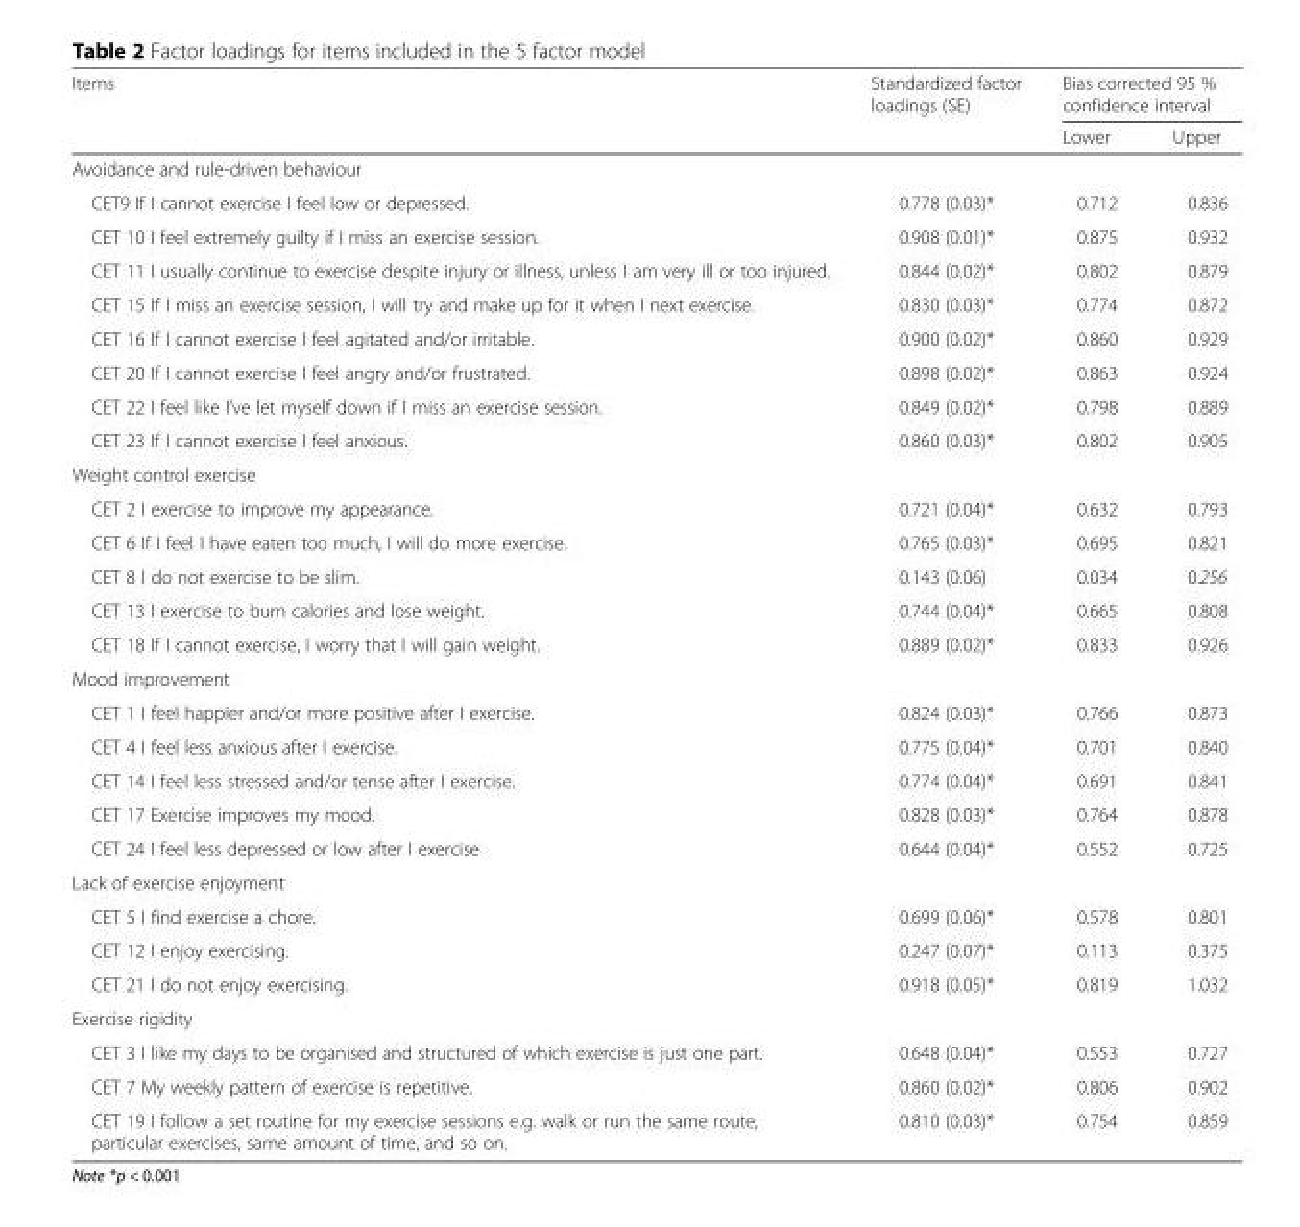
<table><thead><tr><td rowspan="2">Items</td><td rowspan="2">Standardized factor loadings (SE)</td><td colspan="2">Bias corrected 95 % confidence interval</td></tr><tr><td>Lower</td><td>Upper</td></tr></thead><tbody><tr><td colspan="4">Avoidance and rule-driven behaviour</td></tr><tr><td>CET9 If I cannot exercise I feel low or depressed.</td><td>0.778 (0.03)*</td><td>0.712</td><td>0.836</td></tr><tr><td>CET 10 I feel extremely guilty if I miss an exercise session.</td><td>0.908 (0.01)*</td><td>0.875</td><td>0.932</td></tr><tr><td>CET 11 I usually continue to exercise despite injury or illness, unless I am very ill or too injured.</td><td>0.844 (0.02)*</td><td>0.802</td><td>0.879</td></tr><tr><td>CET 15 If I miss an exercise session, I will try and make up for it when I next exercise.</td><td>0.830 (0.03)*</td><td>0.774</td><td>0.872</td></tr><tr><td>CET 16 If I cannot exercise I feel agitated and/or irritable.</td><td>0.900 (0.02)*</td><td>0.860</td><td>0.929</td></tr><tr><td>CET 20 If I cannot exercise I feel angry and/or frustrated.</td><td>0.898 (0.02)*</td><td>0.863</td><td>0.924</td></tr><tr><td>CET 22 I feel like I’ve let myself down if I miss an exercise session.</td><td>0.849 (0.02)*</td><td>0.798</td><td>0.889</td></tr><tr><td>CET 23 If I cannot exercise I feel anxious.</td><td>0.860 (0.03)*</td><td>0.802</td><td>0.905</td></tr><tr><td colspan="4">Weight control exercise</td></tr><tr><td>CET 2 I exercise to improve my appearance.</td><td>0.721 (0.04)*</td><td>0.632</td><td>0.793</td></tr><tr><td>CET 6 If I feel I have eaten too much, I will do more exercise.</td><td>0.765 (0.03)*</td><td>0.695</td><td>0.821</td></tr><tr><td>CET 8 I do not exercise to be slim.</td><td>0.143 (0.06)</td><td>0.034</td><td>0.256</td></tr><tr><td>CET 13 I exercise to burn calories and lose weight.</td><td>0.744 (0.04)*</td><td>0.665</td><td>0.808</td></tr><tr><td>CET 18 If I cannot exercise, I worry that I will gain weight.</td><td>0.889 (0.02)*</td><td>0.833</td><td>0.926</td></tr><tr><td colspan="4">Mood improvement</td></tr><tr><td>CET 1 I feel happier and/or more positive after I exercise.</td><td>0.824 (0.03)*</td><td>0.766</td><td>0.873</td></tr><tr><td>CET 4 I feel less anxious after I exercise.</td><td>0.775 (0.04)*</td><td>0.701</td><td>0.840</td></tr><tr><td>CET 14 I feel less stressed and/or tense after I exercise.</td><td>0.774 (0.04)*</td><td>0.691</td><td>0.841</td></tr><tr><td>CET 17 Exercise improves my mood.</td><td>0.828 (0.03)*</td><td>0.764</td><td>0.878</td></tr><tr><td>CET 24 I feel less depressed or low after I exercise</td><td>0.644 (0.04)*</td><td>0.552</td><td>0.725</td></tr><tr><td colspan="4">Lack of exercise enjoyment</td></tr><tr><td>CET 5 I find exercise a chore.</td><td>0.699 (0.06)*</td><td>0.578</td><td>0.801</td></tr><tr><td>CET 12 I enjoy exercising.</td><td>0.247 (0.07)*</td><td>0.113</td><td>0.375</td></tr><tr><td>CET 21 I do not enjoy exercising.</td><td>0.918 (0.05)*</td><td>0.819</td><td>1.032</td></tr><tr><td colspan="4">Exercise rigidity</td></tr><tr><td>CET 3 I like my days to be organised and structured of which exercise is just one part.</td><td>0.648 (0.04)*</td><td>0.553</td><td>0.727</td></tr><tr><td>CET 7 My weekly pattern of exercise is repetitive.</td><td>0.860 (0.02)*</td><td>0.806</td><td>0.902</td></tr><tr><td>CET 19 I follow a set routine for my exercise sessions e.g. walk or run the same route, particular exercises, same amount of time, and so on.</td><td>0.810 (0.03)*</td><td>0.754</td><td>0.859</td></tr></tbody></table>